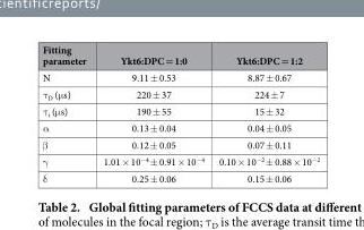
<table><thead><tr><td>Fitting parameter</td><td>Ykt6:DPC = 1:0</td><td>Ykt6:DPC = 1:2</td></tr></thead><tbody><tr><td>N</td><td>9.11 ± 0.53</td><td>8.87 ± 0.67</td></tr><tr><td>τ <sub>D</sub> (μ s)</td><td>220 ± 37</td><td>224 ± 7</td></tr><tr><td>τ <sub>i</sub> (μ s)</td><td>190 ± 55</td><td>15 ± 32</td></tr><tr><td>α</td><td>0.13 ± 0.04</td><td>0.04 ± 0.05</td></tr><tr><td>β</td><td>0.12 ± 0.05</td><td>0.07 ± 0.11</td></tr><tr><td>γ</td><td>1.01 × 10<sup>−4</sup> ± 0.91 × 10<sup>−4</sup></td><td>0.10 × 10<sup>−2</sup> ± 0.88 × 10<sup>−2</sup></td></tr><tr><td>δ</td><td>0.25 ± 0.06</td><td>0.15 ± 0.06</td></tr></tbody></table>